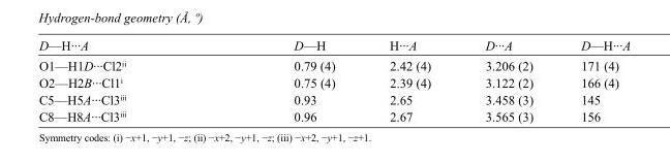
<table><tbody><tr><td>D—H···A</td><td>D—H</td><td>H···A</td><td>D···A</td><td>D—H···A</td></tr><tr><td>O1—H1D···Cl2<sup>ii</sup></td><td>0.79 (4)</td><td>2.42 (4)</td><td>3.206 (2)</td><td>171 (4)</td></tr><tr><td>O2—H2B···Cl1<sup>i</sup></td><td>0.75 (4)</td><td>2.39 (4)</td><td>3.122 (2)</td><td>166 (4)</td></tr><tr><td>C5—H5A···Cl3<sup>iii</sup></td><td>0.93</td><td>2.65</td><td>3.458 (3)</td><td>145</td></tr><tr><td>C8—H8A···Cl3<sup>iii</sup></td><td>0.96</td><td>2.67</td><td>3.565 (3)</td><td>156</td></tr></tbody></table>